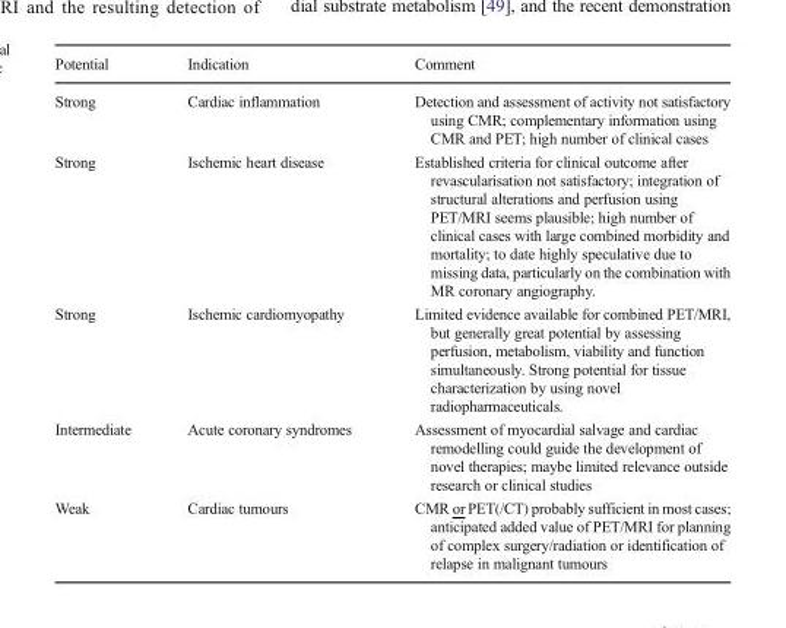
<table><thead><tr><td>Potential</td><td>Indication</td><td>Comment</td></tr></thead><tbody><tr><td>Strong</td><td>Cardiac inflammation</td><td>Detection and assessment of activity not satisfactory using CMR; complementary information using CMR and PET; high number of clinical cases</td></tr><tr><td>Strong</td><td>Ischemic heart disease</td><td>Established criteria for clinical outcome after revascularisation not satisfactory; integration of structural alterations and perfusion using PET/MRI seems plausible; high number of clinical cases with large combined morbidity and mortality; to date highly speculative due to missing data, particularly on the combination with MR coronary angiography.</td></tr><tr><td>Strong</td><td>Ischemic cardiomyopathy</td><td>Limited evidence available for combined PET/MRI, but generally great potential by assessing perfusion, metabolism, viability and function simultaneously. Strong potential for tissue characterization by using novel radiopharmaceuticals.</td></tr><tr><td>Intermediate</td><td>Acute coronary syndromes</td><td>Assessment of myocardial salvage and cardiac remodelling could guide the development of novel therapies; maybe limited relevance outside research or clinical studies</td></tr><tr><td>Weak</td><td>Cardiac tumours</td><td>CMR or PET(/CT) probably sufficient in most cases; anticipated added value of PET/MRI for planning of complex surgery/radiation or identification of relapse in malignant tumours</td></tr></tbody></table>